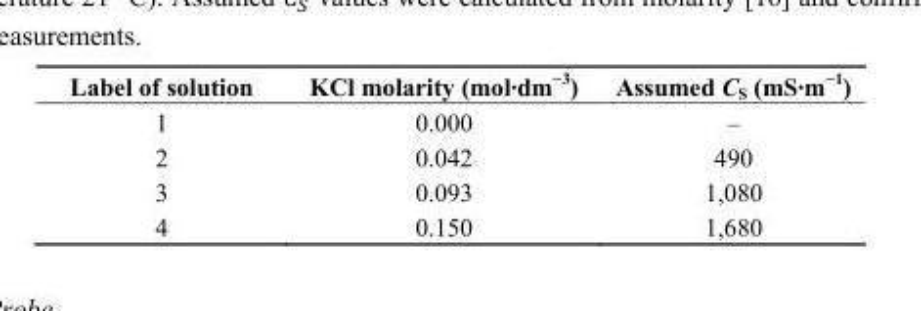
<table><thead><tr><td>Label of solution</td><td>KCl molarity (mol·dm<sup>−3</sup>)</td><td>Assumed C<sub>S</sub> (mS·m<sup>−1</sup>)</td></tr></thead><tbody><tr><td>1</td><td>0.000</td><td>–</td></tr><tr><td>2</td><td>0.042</td><td>490</td></tr><tr><td>3</td><td>0.093</td><td>1,080</td></tr><tr><td>4</td><td>0.150</td><td>1,680</td></tr></tbody></table>